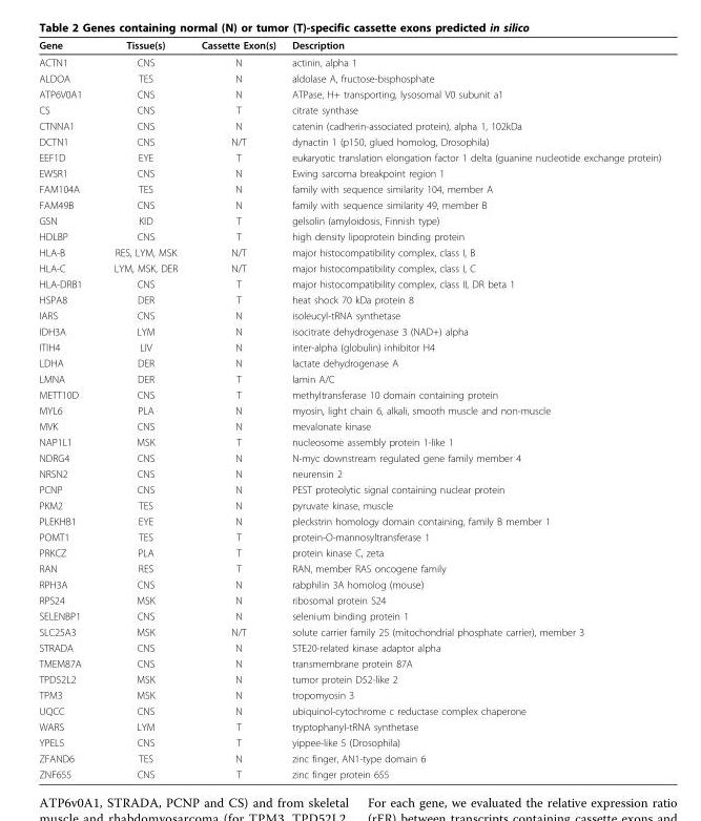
<table><thead><tr><td>Gene</td><td>Tissue(s)</td><td>Cassette Exon(s)</td><td>Description</td></tr></thead><tbody><tr><td>ACTN1</td><td>CNS</td><td>N</td><td>actinin, alpha 1</td></tr><tr><td>ALDOA</td><td>TES</td><td>N</td><td>aldolase A, fructose-bisphosphate</td></tr><tr><td>ATP6V0A1</td><td>CNS</td><td>N</td><td>ATPase, H+ transporting, lysosomal V0 subunit a1</td></tr><tr><td>CS</td><td>CNS</td><td>T</td><td>citrate synthase</td></tr><tr><td>CTNNA1</td><td>CNS</td><td>N</td><td>catenin (cadherin-associated protein), alpha 1, 102kDa</td></tr><tr><td>DCTN1</td><td>CNS</td><td>N/T</td><td>dynactin 1 (p150, glued homolog, Drosophila)</td></tr><tr><td>EEF1D</td><td>EYE</td><td>T</td><td>eukaryotic translation elongation factor 1 delta (guanine nucleotide exchange protein)</td></tr><tr><td>EWSR1</td><td>CNS</td><td>N</td><td>Ewing sarcoma breakpoint region 1</td></tr><tr><td>FAM104A</td><td>TES</td><td>N</td><td>family with sequence similarity 104, member A</td></tr><tr><td>FAM49B</td><td>CNS</td><td>N</td><td>family with sequence similarity 49, member B</td></tr><tr><td>GSN</td><td>KID</td><td>T</td><td>gelsolin (amyloidosis, Finnish type)</td></tr><tr><td>HDLBP</td><td>CNS</td><td>T</td><td>high density lipoprotein binding protein</td></tr><tr><td>HLA-B</td><td>RES, LYM, MSK</td><td>N/T</td><td>major histocompatibility complex, class I, B</td></tr><tr><td>HLA-C</td><td>LYM, MSK, DER</td><td>N/T</td><td>major histocompatibility complex, class I, C</td></tr><tr><td>HLA-DRB1</td><td>CNS</td><td>T</td><td>major histocompatibility complex, class II, DR beta 1</td></tr><tr><td>HSPA8</td><td>DER</td><td>T</td><td>heat shock 70 kDa protein 8</td></tr><tr><td>IARS</td><td>CNS</td><td>N</td><td>isoleucyl-tRNA synthetase</td></tr><tr><td>IDH3A</td><td>LYM</td><td>N</td><td>isocitrate dehydrogenase 3 (NAD+) alpha</td></tr><tr><td>ITIH4</td><td>LIV</td><td>N</td><td>inter-alpha (globulin) inhibitor H4</td></tr><tr><td>LDHA</td><td>DER</td><td>N</td><td>lactate dehydrogenase A</td></tr><tr><td>LMNA</td><td>DER</td><td>T</td><td>lamin A/C</td></tr><tr><td>METT10D</td><td>CNS</td><td>T</td><td>methyltransferase 10 domain containing protein</td></tr><tr><td>MYL6</td><td>PLA</td><td>N</td><td>myosin, light chain 6, alkali, smooth muscle and non-muscle</td></tr><tr><td>MVK</td><td>CNS</td><td>N</td><td>mevalonate kinase</td></tr><tr><td>NAP1L1</td><td>MSK</td><td>T</td><td>nucleosome assembly protein 1-like 1</td></tr><tr><td>NDRG4</td><td>CNS</td><td>N</td><td>N-myc downstream regulated gene family member 4</td></tr><tr><td>NRSN2</td><td>CNS</td><td>N</td><td>neurensin 2</td></tr><tr><td>PCNP</td><td>CNS</td><td>N</td><td>PEST proteolytic signal containing nuclear protein</td></tr><tr><td>PKM2</td><td>TES</td><td>N</td><td>pyruvate kinase, muscle</td></tr><tr><td>PLEKHB1</td><td>EYE</td><td>N</td><td>pleckstrin homology domain containing, family B member 1</td></tr><tr><td>POMT1</td><td>TES</td><td>T</td><td>protein-O-mannosyltransferase 1</td></tr><tr><td>PRKCZ</td><td>PLA</td><td>T</td><td>protein kinase C, zeta</td></tr><tr><td>RAN</td><td>RES</td><td>T</td><td>RAN, member RAS oncogene family</td></tr><tr><td>RPH3A</td><td>CNS</td><td>N</td><td>rabphilin 3A homolog (mouse)</td></tr><tr><td>RPS24</td><td>MSK</td><td>N</td><td>ribosomal protein S24</td></tr><tr><td>SELENBP1</td><td>CNS</td><td>N</td><td>selenium binding protein 1</td></tr><tr><td>SLC25A3</td><td>MSK</td><td>N/T</td><td>solute carrier family 25 (mitochondrial phosphate carrier), member 3</td></tr><tr><td>STRADA</td><td>CNS</td><td>N</td><td>STE20-related kinase adaptor alpha</td></tr><tr><td>TMEM87A</td><td>CNS</td><td>N</td><td>transmembrane protein 87A</td></tr><tr><td>TPD52L2</td><td>MSK</td><td>N</td><td>tumor protein D52-like 2</td></tr><tr><td>TPM3</td><td>MSK</td><td>N</td><td>tropomyosin 3</td></tr><tr><td>UQCC</td><td>CNS</td><td>N</td><td>ubiquinol-cytochrome c reductase complex chaperone</td></tr><tr><td>WARS</td><td>LYM</td><td>T</td><td>tryptophanyl-tRNA synthetase</td></tr><tr><td>YPEL5</td><td>CNS</td><td>T</td><td>yippee-like 5 (Drosophila)</td></tr><tr><td>ZFAND6</td><td>TES</td><td>N</td><td>zinc finger, AN1-type domain 6</td></tr><tr><td>ZNF655</td><td>CNS</td><td>T</td><td>zinc finger protein 655</td></tr></tbody></table>